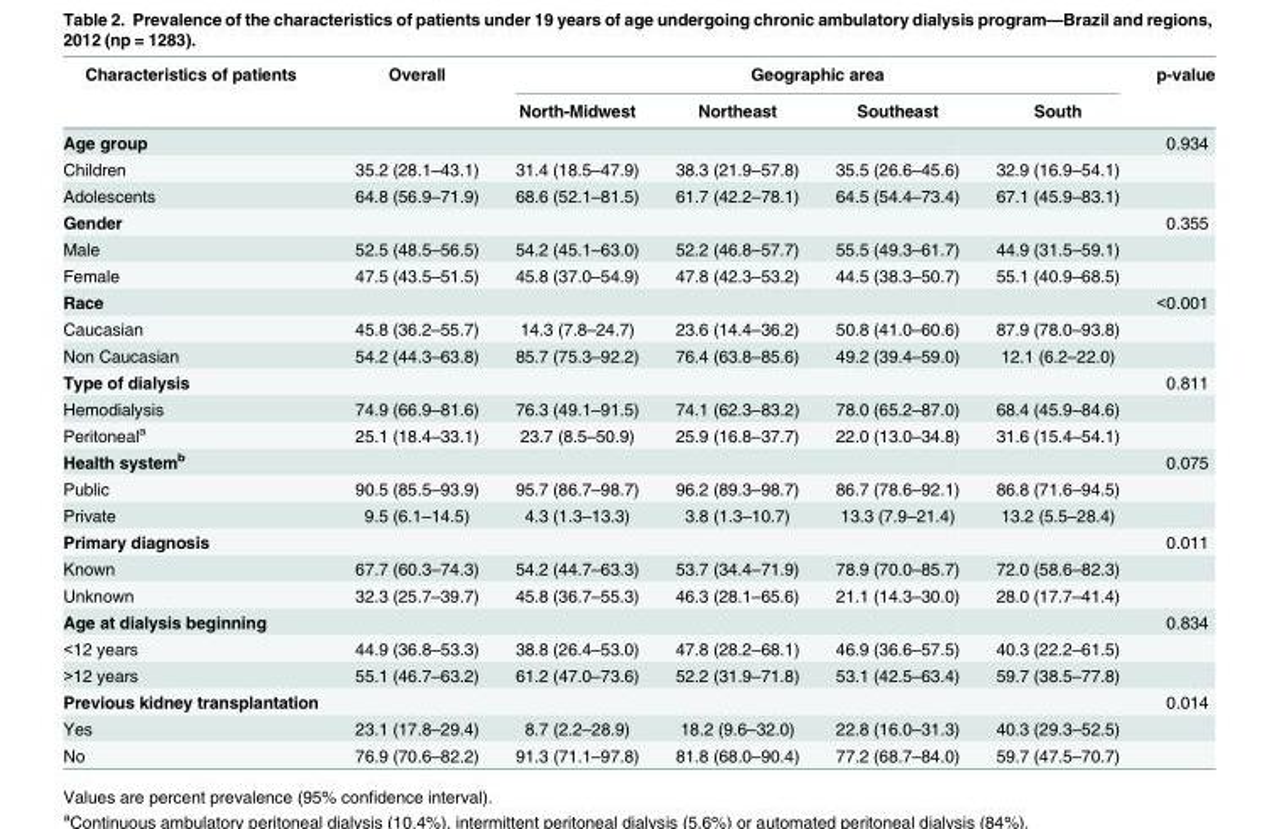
<table><thead><tr><td rowspan="2">Characteristics of patients</td><td rowspan="2">Overall</td><td colspan="4">Geographic area</td><td rowspan="2">p-value</td></tr><tr><td>North-Midwest</td><td>Northeast</td><td>Southeast</td><td>South</td></tr></thead><tbody><tr><td>Age group</td><td></td><td></td><td></td><td></td><td></td><td>0.934</td></tr><tr><td>Children</td><td>35.2 (28.1–43.1)</td><td>31.4 (18.5–47.9)</td><td>38.3 (21.9–57.8)</td><td>35.5 (26.6–45.6)</td><td>32.9 (16.9–54.1)</td><td></td></tr><tr><td>Adolescents</td><td>64.8 (56.9–71.9)</td><td>68.6 (52.1–81.5)</td><td>61.7 (42.2–78.1)</td><td>64.5 (54.4–73.4)</td><td>67.1 (45.9–83.1)</td><td></td></tr><tr><td>Gender</td><td></td><td></td><td></td><td></td><td></td><td>0.355</td></tr><tr><td>Male</td><td>52.5 (48.5–56.5)</td><td>54.2 (45.1–63.0)</td><td>52.2 (46.8–57.7)</td><td>55.5 (49.3–61.7)</td><td>44.9 (31.5–59.1)</td><td></td></tr><tr><td>Female</td><td>47.5 (43.5–51.5)</td><td>45.8 (37.0–54.9)</td><td>47.8 (42.3–53.2)</td><td>44.5 (38.3–50.7)</td><td>55.1 (40.9–68.5)</td><td></td></tr><tr><td>Race</td><td></td><td></td><td></td><td></td><td></td><td>&lt;0.001</td></tr><tr><td>Caucasian</td><td>45.8 (36.2–55.7)</td><td>14.3 (7.8–24.7)</td><td>23.6 (14.4–36.2)</td><td>50.8 (41.0–60.6)</td><td>87.9 (78.0–93.8)</td><td></td></tr><tr><td>Non Caucasian</td><td>54.2 (44.3–63.8)</td><td>85.7 (75.3–92.2)</td><td>76.4 (63.8–85.6)</td><td>49.2 (39.4–59.0)</td><td>12.1 (6.2–22.0)</td><td></td></tr><tr><td>Type of dialysis</td><td></td><td></td><td></td><td></td><td></td><td>0.811</td></tr><tr><td>Hemodialysis</td><td>74.9 (66.9–81.6)</td><td>76.3 (49.1–91.5)</td><td>74.1 (62.3–83.2)</td><td>78.0 (65.2–87.0)</td><td>68.4 (45.9–84.6)</td><td></td></tr><tr><td>Peritoneal<sup>a</sup></td><td>25.1 (18.4–33.1)</td><td>23.7 (8.5–50.9)</td><td>25.9 (16.8–37.7)</td><td>22.0 (13.0–34.8)</td><td>31.6 (15.4–54.1)</td><td></td></tr><tr><td>Health system<sup>b</sup></td><td></td><td></td><td></td><td></td><td></td><td>0.075</td></tr><tr><td>Public</td><td>90.5 (85.5–93.9)</td><td>95.7 (86.7–98.7)</td><td>96.2 (89.3–98.7)</td><td>86.7 (78.6–92.1)</td><td>86.8 (71.6–94.5)</td><td></td></tr><tr><td>Private</td><td>9.5 (6.1–14.5)</td><td>4.3 (1.3–13.3)</td><td>3.8 (1.3–10.7)</td><td>13.3 (7.9–21.4)</td><td>13.2 (5.5–28.4)</td><td></td></tr><tr><td>Primary diagnosis</td><td></td><td></td><td></td><td></td><td></td><td>0.011</td></tr><tr><td>Known</td><td>67.7 (60.3–74.3)</td><td>54.2 (44.7–63.3)</td><td>53.7 (34.4–71.9)</td><td>78.9 (70.0–85.7)</td><td>72.0 (58.6–82.3)</td><td></td></tr><tr><td>Unknown</td><td>32.3 (25.7–39.7)</td><td>45.8 (36.7–55.3)</td><td>46.3 (28.1–65.6)</td><td>21.1 (14.3–30.0)</td><td>28.0 (17.7–41.4)</td><td></td></tr><tr><td>Age at dialysis beginning</td><td></td><td></td><td></td><td></td><td></td><td>0.834</td></tr><tr><td>&lt;12 years</td><td>44.9 (36.8–53.3)</td><td>38.8 (26.4–53.0)</td><td>47.8 (28.2–68.1)</td><td>46.9 (36.6–57.5)</td><td>40.3 (22.2–61.5)</td><td></td></tr><tr><td>&gt;12 years</td><td>55.1 (46.7–63.2)</td><td>61.2 (47.0–73.6)</td><td>52.2 (31.9–71.8)</td><td>53.1 (42.5–63.4)</td><td>59.7 (38.5–77.8)</td><td></td></tr><tr><td>Previous kidney transplantation</td><td></td><td></td><td></td><td></td><td></td><td>0.014</td></tr><tr><td>Yes</td><td>23.1 (17.8–29.4)</td><td>8.7 (2.2–28.9)</td><td>18.2 (9.6–32.0)</td><td>22.8 (16.0–31.3)</td><td>40.3 (29.3–52.5)</td><td></td></tr><tr><td>No</td><td>76.9 (70.6–82.2)</td><td>91.3 (71.1–97.8)</td><td>81.8 (68.0–90.4)</td><td>77.2 (68.7–84.0)</td><td>59.7 (47.5–70.7)</td><td></td></tr></tbody></table>